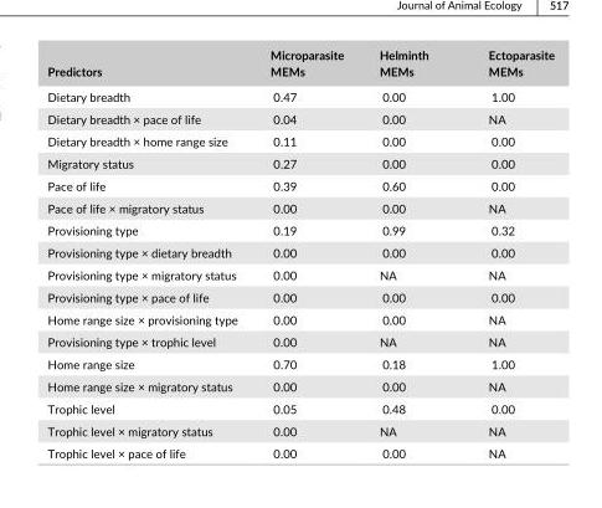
<table><thead><tr><td>Predictors</td><td>Microparasite MEMs</td><td>Helminth MEMs</td><td>Ectoparasite MEMs</td></tr></thead><tbody><tr><td>Dietary breadth</td><td>0.47</td><td>0.00</td><td>1.00</td></tr><tr><td>Dietary breadth × pace of life</td><td>0.04</td><td>0.00</td><td>NA</td></tr><tr><td>Dietary breadth × home range size</td><td>0.11</td><td>0.00</td><td>0.00</td></tr><tr><td>Migratory status</td><td>0.27</td><td>0.00</td><td>0.00</td></tr><tr><td>Pace of life</td><td>0.39</td><td>0.60</td><td>0.00</td></tr><tr><td>Pace of life × migratory status</td><td>0.00</td><td>0.00</td><td>NA</td></tr><tr><td>Provisioning type</td><td>0.19</td><td>0.99</td><td>0.32</td></tr><tr><td>Provisioning type × dietary breadth</td><td>0.00</td><td>0.00</td><td>0.00</td></tr><tr><td>Provisioning type × migratory status</td><td>0.00</td><td>NA</td><td>NA</td></tr><tr><td>Provisioning type × pace of life</td><td>0.00</td><td>0.00</td><td>0.00</td></tr><tr><td>Home range size × provisioning type</td><td>0.00</td><td>0.00</td><td>NA</td></tr><tr><td>Provisioning type × trophic level</td><td>0.00</td><td>NA</td><td>NA</td></tr><tr><td>Home range size</td><td>0.70</td><td>0.18</td><td>1.00</td></tr><tr><td>Home range size × migratory status</td><td>0.00</td><td>0.00</td><td>NA</td></tr><tr><td>Trophic level</td><td>0.05</td><td>0.48</td><td>0.00</td></tr><tr><td>Trophic level × migratory status</td><td>0.00</td><td>NA</td><td>NA</td></tr><tr><td>Trophic level × pace of life</td><td>0.00</td><td>0.00</td><td>NA</td></tr></tbody></table>